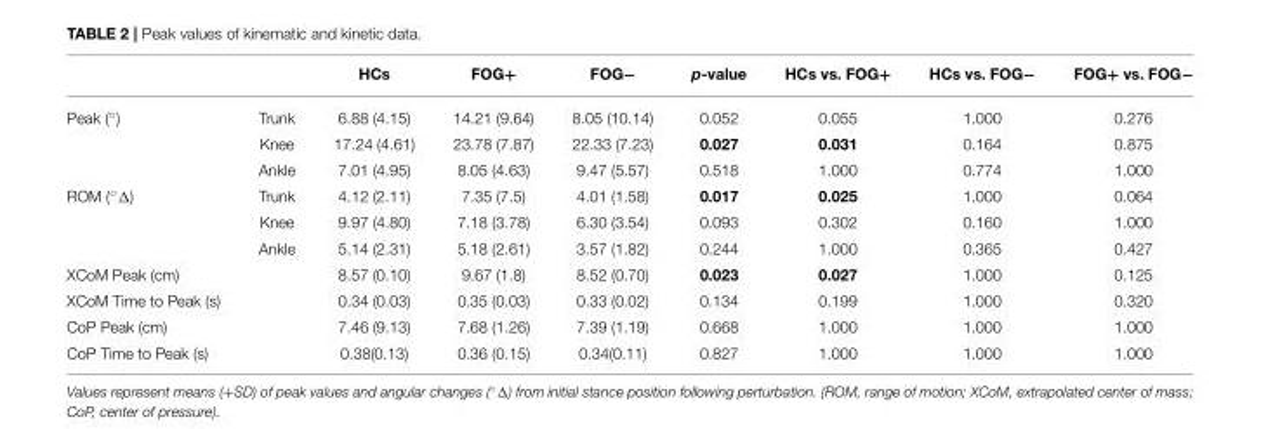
<table><thead><tr><td></td><td></td><td>HCs</td><td>FOG+</td><td>FOG−</td><td>p-value</td><td>HCs vs. FOG+</td><td>HCs vs. FOG−</td><td>FOG+ vs. FOG−</td></tr></thead><tbody><tr><td rowspan="3">Peak (◦)</td><td>Trunk</td><td>6.88 (4.15)</td><td>14.21 (9.64)</td><td>8.05 (10.14)</td><td>0.052</td><td>0.055</td><td>1.000</td><td>0.276</td></tr><tr><td>Knee</td><td>17.24 (4.61)</td><td>23.78 (7.87)</td><td>22.33 (7.23)</td><td>0.027</td><td>0.031</td><td>0.164</td><td>0.875</td></tr><tr><td>Ankle</td><td>7.01 (4.95)</td><td>8.05 (4.63)</td><td>9.47 (5.57)</td><td>0.518</td><td>1.000</td><td>0.774</td><td>1.000</td></tr><tr><td rowspan="3">ROM (◦Δ)</td><td>Trunk</td><td>4.12 (2.11)</td><td>7.35 (7.5)</td><td>4.01 (1.58)</td><td>0.017</td><td>0.025</td><td>1.000</td><td>0.064</td></tr><tr><td>Knee</td><td>9.97 (4.80)</td><td>7.18 (3.78)</td><td>6.30 (3.54)</td><td>0.093</td><td>0.302</td><td>0.160</td><td>1.000</td></tr><tr><td>Ankle</td><td>5.14 (2.31)</td><td>5.18 (2.61)</td><td>3.57 (1.82)</td><td>0.244</td><td>1.000</td><td>0.365</td><td>0.427</td></tr><tr><td>XCoM Peak (cm)</td><td></td><td>8.57 (0.10)</td><td>9.67 (1.8)</td><td>8.52 (0.70)</td><td>0.023</td><td>0.027</td><td>1.000</td><td>0.125</td></tr><tr><td>XCoM Time to Peak (s)</td><td></td><td>0.34 (0.03)</td><td>0.35 (0.03)</td><td>0.33 (0.02)</td><td>0.134</td><td>0.199</td><td>1.000</td><td>0.320</td></tr><tr><td>CoP Peak (cm)</td><td></td><td>7.46 (9.13)</td><td>7.68 (1.26)</td><td>7.39 (1.19)</td><td>0.668</td><td>1.000</td><td>1.000</td><td>1.000</td></tr><tr><td>CoP Time to Peak (s)</td><td></td><td>0.38(0.13)</td><td>0.36 (0.15)</td><td>0.34(0.11)</td><td>0.827</td><td>1.000</td><td>1.000</td><td>1.000</td></tr></tbody></table>